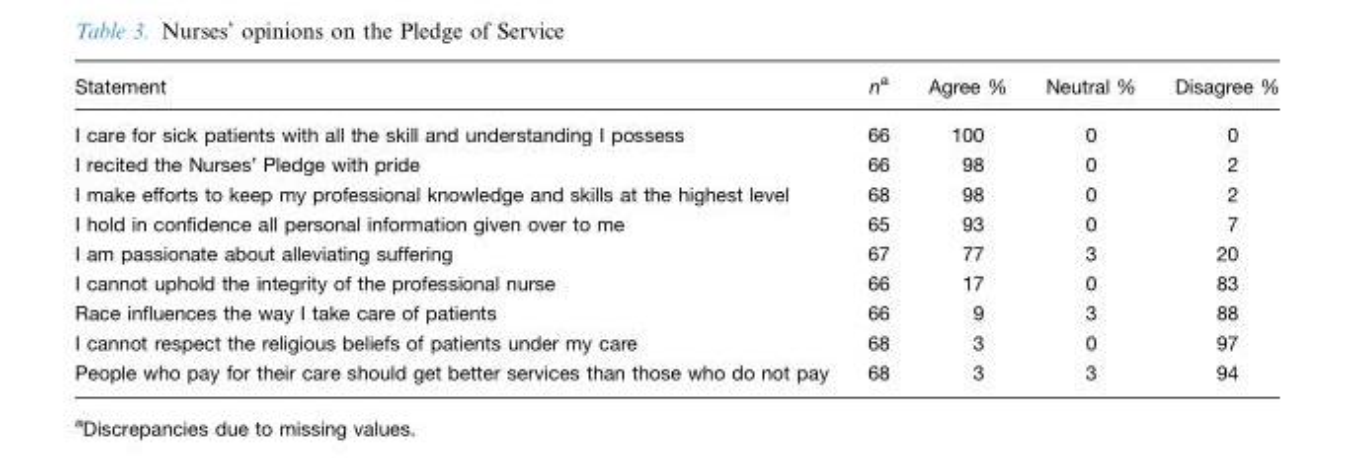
<table><thead><tr><td>Statement</td><td>na</td><td>Agree %</td><td>Neutral %</td><td>Disagree %</td></tr></thead><tbody><tr><td>I care for sick patients with all the skill and understanding I possess</td><td>66</td><td>100</td><td>0</td><td>0</td></tr><tr><td>I recited the Nurses’ Pledge with pride</td><td>66</td><td>98</td><td>0</td><td>2</td></tr><tr><td>I make efforts to keep my professional knowledge and skills at the highest level</td><td>68</td><td>98</td><td>0</td><td>2</td></tr><tr><td>I hold in confidence all personal information given over to me</td><td>65</td><td>93</td><td>0</td><td>7</td></tr><tr><td>I am passionate about alleviating suffering</td><td>67</td><td>77</td><td>3</td><td>20</td></tr><tr><td>I cannot uphold the integrity of the professional nurse</td><td>66</td><td>17</td><td>0</td><td>83</td></tr><tr><td>Race influences the way I take care of patients</td><td>66</td><td>9</td><td>3</td><td>88</td></tr><tr><td>I cannot respect the religious beliefs of patients under my care</td><td>68</td><td>3</td><td>0</td><td>97</td></tr><tr><td>People who pay for their care should get better services than those who do not pay</td><td>68</td><td>3</td><td>3</td><td>94</td></tr></tbody></table>